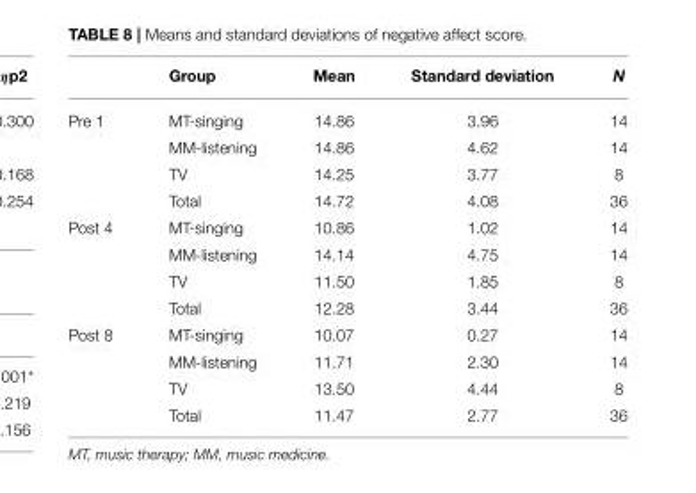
<table><thead><tr><td></td><td>Group</td><td>Mean</td><td>Standard deviation</td><td>N</td></tr></thead><tbody><tr><td rowspan="4">Pre 1</td><td>MT-singing</td><td>14.86</td><td>3.96</td><td>14</td></tr><tr><td>MM-listening</td><td>14.86</td><td>4.62</td><td>14</td></tr><tr><td>TV</td><td>14.25</td><td>3.77</td><td>8</td></tr><tr><td>Total</td><td>14.72</td><td>4.08</td><td>36</td></tr><tr><td rowspan="4">Post 4</td><td>MT-singing</td><td>10.86</td><td>1.02</td><td>14</td></tr><tr><td>MM-listening</td><td>14.14</td><td>4.75</td><td>14</td></tr><tr><td>TV</td><td>11.50</td><td>1.85</td><td>8</td></tr><tr><td>Total</td><td>12.28</td><td>3.44</td><td>36</td></tr><tr><td rowspan="4">Post 8</td><td>MT-singing</td><td>10.07</td><td>0.27</td><td>14</td></tr><tr><td>MM-listening</td><td>11.71</td><td>2.30</td><td>14</td></tr><tr><td>TV</td><td>13.50</td><td>4.44</td><td>8</td></tr><tr><td>Total</td><td>11.47</td><td>2.77</td><td>36</td></tr></tbody></table>